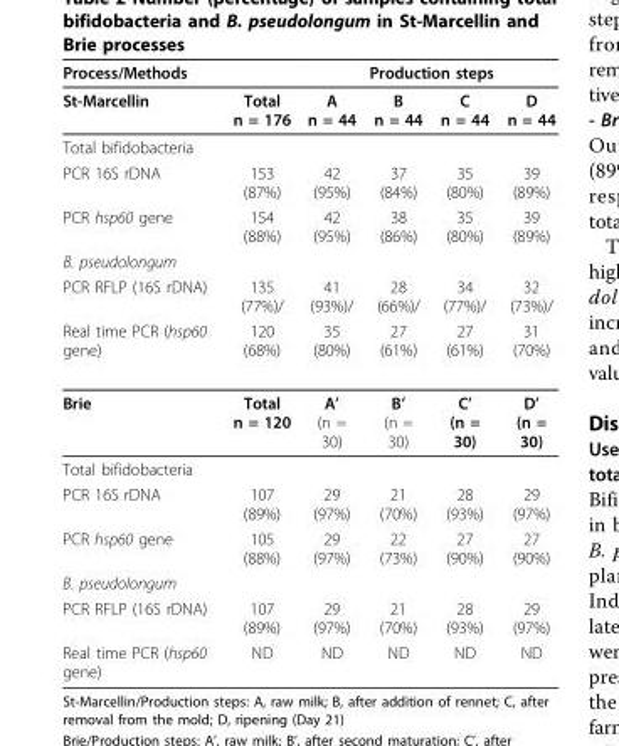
<table><thead><tr><td rowspan="2">Process/Methods St-Marcellin</td><td rowspan="2">Total n = 176</td><td colspan="4">Production steps</td></tr><tr><td>A n = 44</td><td>B n = 44</td><td>C n = 44</td><td>D n = 44</td></tr></thead><tbody><tr><td colspan="6">Total bifidobacteria</td></tr><tr><td>PCR 16S rDNA</td><td>153 (87%)</td><td>42 (95%)</td><td>37 (84%)</td><td>35 (80%)</td><td>39 (89%)</td></tr><tr><td>PCR hsp60 gene</td><td>154 (88%)</td><td>42 (95%)</td><td>38 (86%)</td><td>35 (80%)</td><td>39 (89%)</td></tr><tr><td colspan="6">B. pseudolongum</td></tr><tr><td>PCR RFLP (16S rDNA)</td><td>135 (77%)/</td><td>41 (93%)/</td><td>28 (66%)/</td><td>34 (77%)/</td><td>32 (73%)/</td></tr><tr><td>Real time PCR (hsp60 gene)</td><td>120 (68%)</td><td>35 (80%)</td><td>27 (61%)</td><td>27 (61%)</td><td>31 (70%)</td></tr><tr><td>Brie</td><td>Total n = 120</td><td>A’ (n = 30)</td><td>B’ (n = 30)</td><td>C’ (n = 30)</td><td>D’ (n = 30)</td></tr><tr><td colspan="6">Total bifidobacteria</td></tr><tr><td>PCR 16S rDNA</td><td>107 (89%)</td><td>29 (97%)</td><td>21 (70%)</td><td>28 (93%)</td><td>29 (97%)</td></tr><tr><td>PCR hsp60 gene</td><td>105 (88%)</td><td>29 (97%)</td><td>22 (73%)</td><td>27 (90%)</td><td>27 (90%)</td></tr><tr><td colspan="6">B. pseudolongum</td></tr><tr><td>PCR RFLP (16S rDNA)</td><td>107 (89%)</td><td>29 (97%)</td><td>21 (70%)</td><td>28 (93%)</td><td>29 (97%)</td></tr><tr><td>Real time PCR (hsp60 gene)</td><td>ND</td><td>ND</td><td>ND</td><td>ND</td><td>ND</td></tr></tbody></table>